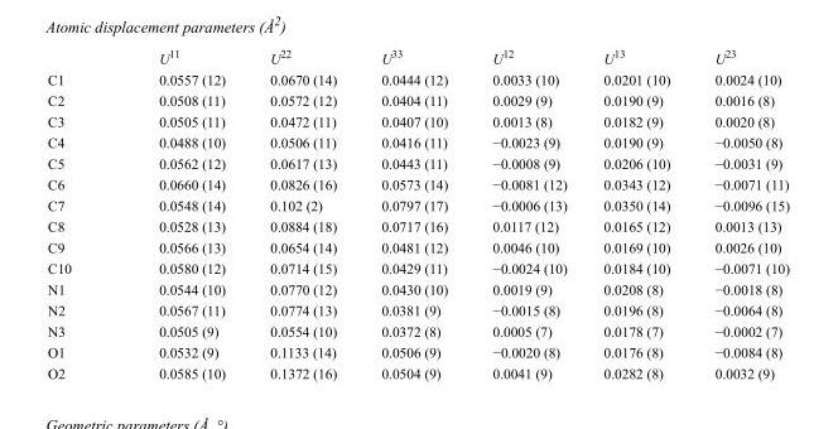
<table><thead><tr><td></td><td>U<sup>11</sup></td><td>U<sup>22</sup></td><td>U<sup>33</sup></td><td>U<sup>12</sup></td><td>U<sup>13</sup></td><td>U<sup>23</sup></td></tr></thead><tbody><tr><td>C1</td><td>0.0557 (12)</td><td>0.0670 (14)</td><td>0.0444 (12)</td><td>0.0033 (10)</td><td>0.0201 (10)</td><td>0.0024 (10)</td></tr><tr><td>C2</td><td>0.0508 (11)</td><td>0.0572 (12)</td><td>0.0404 (11)</td><td>0.0029 (9)</td><td>0.0190 (9)</td><td>0.0016 (8)</td></tr><tr><td>C3</td><td>0.0505 (11)</td><td>0.0472 (11)</td><td>0.0407 (10)</td><td>0.0013 (8)</td><td>0.0182 (9)</td><td>0.0020 (8)</td></tr><tr><td>C4</td><td>0.0488 (10)</td><td>0.0506 (11)</td><td>0.0416 (11)</td><td>−0.0023 (9)</td><td>0.0190 (9)</td><td>−0.0050 (8)</td></tr><tr><td>C5</td><td>0.0562 (12)</td><td>0.0617 (13)</td><td>0.0443 (11)</td><td>−0.0008 (9)</td><td>0.0206 (10)</td><td>−0.0031 (9)</td></tr><tr><td>C6</td><td>0.0660 (14)</td><td>0.0826 (16)</td><td>0.0573 (14)</td><td>−0.0081 (12)</td><td>0.0343 (12)</td><td>−0.0071 (11)</td></tr><tr><td>C7</td><td>0.0548 (14)</td><td>0.102 (2)</td><td>0.0797 (17)</td><td>−0.0006 (13)</td><td>0.0350 (14)</td><td>−0.0096 (15)</td></tr><tr><td>C8</td><td>0.0528 (13)</td><td>0.0884 (18)</td><td>0.0717 (16)</td><td>0.0117 (12)</td><td>0.0165 (12)</td><td>0.0013 (13)</td></tr><tr><td>C9</td><td>0.0566 (13)</td><td>0.0654 (14)</td><td>0.0481 (12)</td><td>0.0046 (10)</td><td>0.0169 (10)</td><td>0.0026 (10)</td></tr><tr><td>C10</td><td>0.0580 (12)</td><td>0.0714 (15)</td><td>0.0429 (11)</td><td>−0.0024 (10)</td><td>0.0184 (10)</td><td>−0.0071 (10)</td></tr><tr><td>N1</td><td>0.0544 (10)</td><td>0.0770 (12)</td><td>0.0430 (10)</td><td>0.0019 (9)</td><td>0.0208 (8)</td><td>−0.0018 (8)</td></tr><tr><td>N2</td><td>0.0567 (11)</td><td>0.0774 (13)</td><td>0.0381 (9)</td><td>−0.0015 (8)</td><td>0.0196 (8)</td><td>−0.0064 (8)</td></tr><tr><td>N3</td><td>0.0505 (9)</td><td>0.0554 (10)</td><td>0.0372 (8)</td><td>0.0005 (7)</td><td>0.0178 (7)</td><td>−0.0002 (7)</td></tr><tr><td>O1</td><td>0.0532 (9)</td><td>0.1133 (14)</td><td>0.0506 (9)</td><td>−0.0020 (8)</td><td>0.0176 (8)</td><td>−0.0084 (8)</td></tr><tr><td>O2</td><td>0.0585 (10)</td><td>0.1372 (16)</td><td>0.0504 (9)</td><td>0.0041 (9)</td><td>0.0282 (8)</td><td>0.0032 (9)</td></tr></tbody></table>